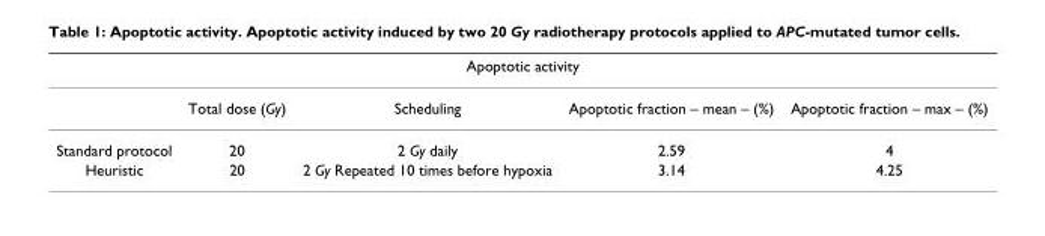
<table><thead><tr><td colspan="5">Apoptotic activity</td></tr><tr><td></td><td>Total dose (Gy)</td><td>Scheduling</td><td>Apoptotic fraction – mean – (%)</td><td>Apoptotic fraction – max – (%)</td></tr></thead><tbody><tr><td>Standard protocol</td><td>20</td><td>2 Gy daily</td><td>2.59</td><td>4</td></tr><tr><td>Heuristic</td><td>20</td><td>2 Gy Repeated 10 times before hypoxia</td><td>3.14</td><td>4.25</td></tr></tbody></table>